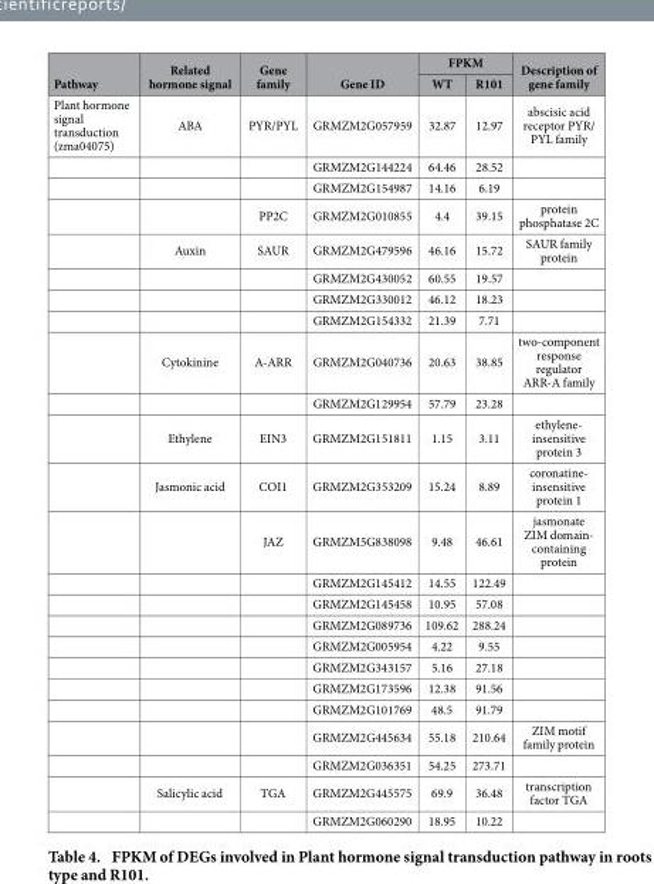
<table><thead><tr><td rowspan="2">Pathway</td><td rowspan="2">Related hormone signal</td><td rowspan="2">Gene family</td><td rowspan="2">Gene ID</td><td colspan="2">FPKM</td><td rowspan="2">Description of gene family</td></tr><tr><td>WT</td><td>R101</td></tr></thead><tbody><tr><td rowspan="24">Plant hormone signal transduction (zma04075)</td><td>ABA</td><td>PYR/PYL</td><td>GRMZM2G057959</td><td>32.87</td><td>12.97</td><td>abscisic acid receptor PYR/ PYL family</td></tr><tr><td></td><td></td><td>GRMZM2G144224</td><td>64.46</td><td>28.52</td><td></td></tr><tr><td></td><td></td><td>GRMZM2G154987</td><td>14.16</td><td>6.19</td><td></td></tr><tr><td></td><td>PP2C</td><td>GRMZM2G010855</td><td>4.4</td><td>39.15</td><td>protein phosphatase 2C</td></tr><tr><td>Auxin</td><td>SAUR</td><td>GRMZM2G479596</td><td>46.16</td><td>15.72</td><td>SAUR family protein</td></tr><tr><td></td><td></td><td>GRMZM2G430052</td><td>60.55</td><td>19.57</td><td></td></tr><tr><td></td><td></td><td>GRMZM2G330012</td><td>46.12</td><td>18.23</td><td></td></tr><tr><td></td><td></td><td>GRMZM2G154332</td><td>21.39</td><td>7.71</td><td></td></tr><tr><td>Cytokinine</td><td>A-ARR</td><td>GRMZM2G040736</td><td>20.63</td><td>38.85</td><td>two-component response regulator ARR-A family</td></tr><tr><td></td><td></td><td>GRMZM2G129954</td><td>57.79</td><td>23.28</td><td></td></tr><tr><td>Ethylene</td><td>EIN3</td><td>GRMZM2G151811</td><td>1.15</td><td>3.11</td><td>ethylene- insensitive protein 3</td></tr><tr><td>Jasmonic acid</td><td>COI1</td><td>GRMZM2G353209</td><td>15.24</td><td>8.89</td><td>coronatine- insensitive protein 1</td></tr><tr><td></td><td>JAZ</td><td>GRMZM5G838098</td><td>9.48</td><td>46.61</td><td>jasmonate ZIM domain- containing protein</td></tr><tr><td></td><td></td><td>GRMZM2G145412</td><td>14.55</td><td>122.49</td><td></td></tr><tr><td></td><td></td><td>GRMZM2G145458</td><td>10.95</td><td>57.08</td><td></td></tr><tr><td></td><td></td><td>GRMZM2G089736</td><td>109.62</td><td>288.24</td><td></td></tr><tr><td></td><td></td><td>GRMZM2G005954</td><td>4.22</td><td>9.55</td><td></td></tr><tr><td></td><td></td><td>GRMZM2G343157</td><td>5.16</td><td>27.18</td><td></td></tr><tr><td></td><td></td><td>GRMZM2G173596</td><td>12.38</td><td>91.56</td><td></td></tr><tr><td></td><td></td><td>GRMZM2G101769</td><td>48.5</td><td>91.79</td><td></td></tr><tr><td></td><td></td><td>GRMZM2G445634</td><td>55.18</td><td>210.64</td><td>ZIM motif family protein</td></tr><tr><td></td><td></td><td>GRMZM2G036351</td><td>54.25</td><td>273.71</td><td></td></tr><tr><td>Salicylic acid</td><td>TGA</td><td>GRMZM2G445575</td><td>69.9</td><td>36.48</td><td>transcription factor TGA</td></tr><tr><td></td><td></td><td>GRMZM2G060290</td><td>18.95</td><td>10.22</td><td></td></tr></tbody></table>